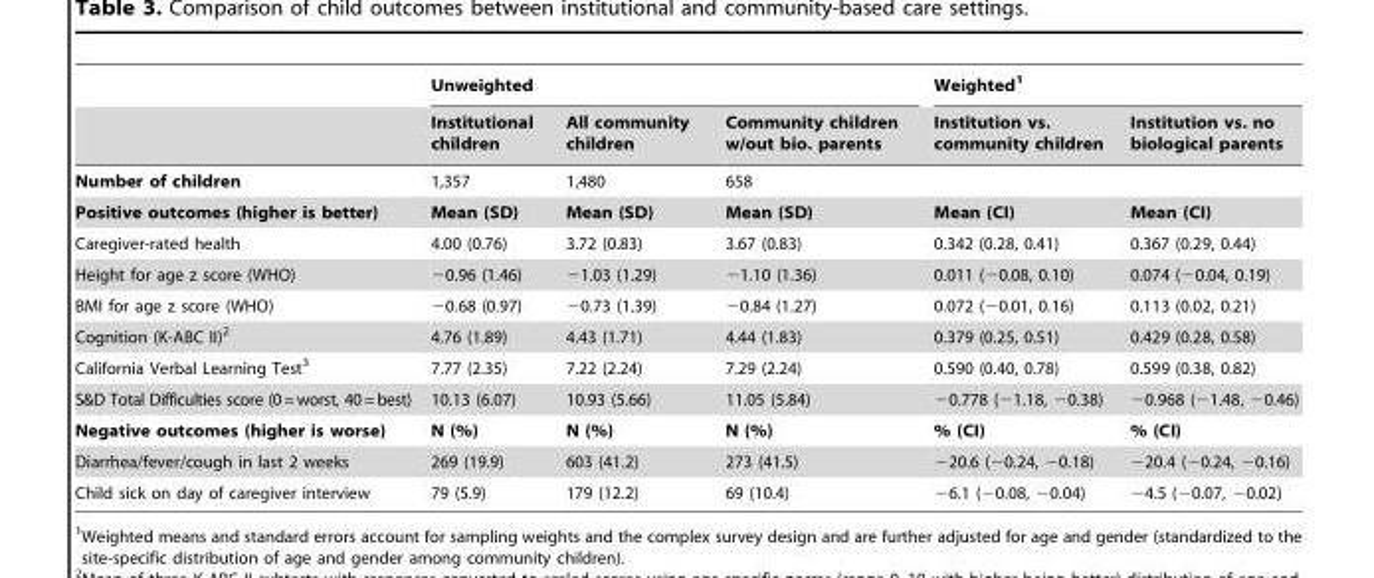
<table><thead><tr><td rowspan="2"></td><td colspan="3">Unweighted</td><td colspan="2">Weighted<sup>1</sup></td></tr><tr><td>Institutional children</td><td>All community children</td><td>Community children w/out bio. parents</td><td>Institution vs. community children</td><td>Institution vs. no biological parents</td></tr></thead><tbody><tr><td>Number of children</td><td>1,357</td><td>1,480</td><td>658</td><td></td><td></td></tr><tr><td>Positive outcomes (higher is better)</td><td>Mean (SD)</td><td>Mean (SD)</td><td>Mean (SD)</td><td>Mean (CI)</td><td>Mean (CI)</td></tr><tr><td>Caregiver-rated health</td><td>4.00 (0.76)</td><td>3.72 (0.83)</td><td>3.67 (0.83)</td><td>0.342 (0.28, 0.41)</td><td>0.367 (0.29, 0.44)</td></tr><tr><td>Height for age z score (WHO)</td><td>−0.96 (1.46)</td><td>−1.03 (1.29)</td><td>−1.10 (1.36)</td><td>0.011 (−0.08, 0.10)</td><td>0.074 (−0.04, 0.19)</td></tr><tr><td>BMI for age z score (WHO)</td><td>−0.68 (0.97)</td><td>−0.73 (1.39)</td><td>−0.84 (1.27)</td><td>0.072 (−0.01, 0.16)</td><td>0.113 (0.02, 0.21)</td></tr><tr><td>Cognition (K-ABC II)<sup>2</sup></td><td>4.76 (1.89)</td><td>4.43 (1.71)</td><td>4.44 (1.83)</td><td>0.379 (0.25, 0.51)</td><td>0.429 (0.28, 0.58)</td></tr><tr><td>California Verbal Learning Test<sup>3</sup></td><td>7.77 (2.35)</td><td>7.22 (2.24)</td><td>7.29 (2.24)</td><td>0.590 (0.40, 0.78)</td><td>0.599 (0.38, 0.82)</td></tr><tr><td>S&amp;D Total Difficulties score (0=worst, 40=best)</td><td>10.13 (6.07)</td><td>10.93 (5.66)</td><td>11.05 (5.84)</td><td>−0.778 (−1.18, −0.38)</td><td>−0.968 (−1.48, −0.46)</td></tr><tr><td>Negative outcomes (higher is worse)</td><td>N (%)</td><td>N (%)</td><td>N (%)</td><td>% (CI)</td><td>% (CI)</td></tr><tr><td>Diarrhea/fever/cough in last 2 weeks</td><td>269 (19.9)</td><td>603 (41.2)</td><td>273 (41.5)</td><td>−20.6 (−0.24, −0.18)</td><td>−20.4 (−0.24, −0.16)</td></tr><tr><td>Child sick on day of caregiver interview</td><td>79 (5.9)</td><td>179 (12.2)</td><td>69 (10.4)</td><td>−6.1 (−0.08, −0.04)</td><td>−4.5 (−0.07, −0.02)</td></tr></tbody></table>